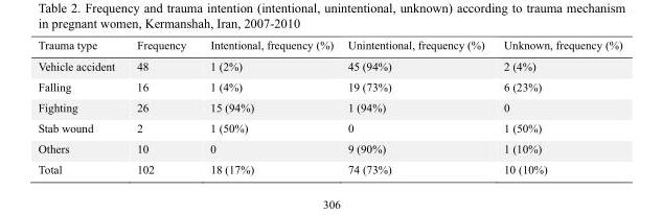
<table><thead><tr><td>Trauma type</td><td>Frequency</td><td>Intentional, frequency (%)</td><td>Unintentional, frequency (%)</td><td>Unknown, frequency (%)</td></tr></thead><tbody><tr><td>Vehicle accident</td><td>48</td><td>1 (2%)</td><td>45 (94%)</td><td>2 (4%)</td></tr><tr><td>Falling</td><td>16</td><td>1 (4%)</td><td>19 (73%)</td><td>6 (23%)</td></tr><tr><td>Fighting</td><td>26</td><td>15 (94%)</td><td>1 (94%)</td><td>0</td></tr><tr><td>Stab wound</td><td>2</td><td>1 (50%)</td><td>0</td><td>1 (50%)</td></tr><tr><td>Others</td><td>10</td><td>0</td><td>9 (90%)</td><td>1 (10%)</td></tr><tr><td>Total</td><td>102</td><td>18 (17%)</td><td>74 (73%)</td><td>10 (10%)</td></tr></tbody></table>